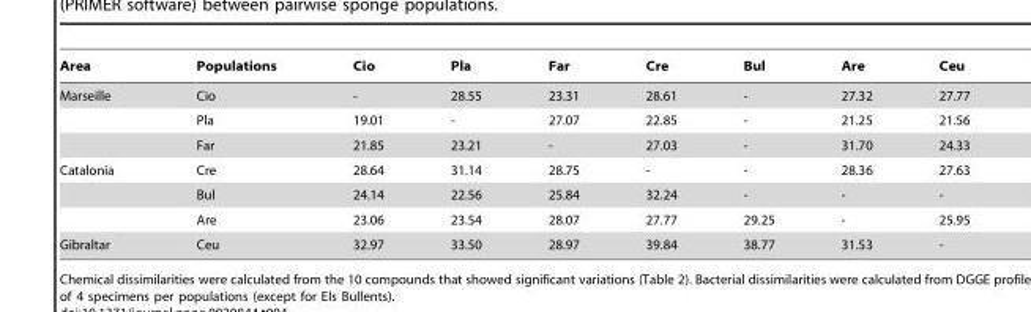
<table><thead><tr><td>Area</td><td>Populations</td><td>Cio</td><td>Pla</td><td>Far</td><td>Cre</td><td>Bul</td><td>Are</td><td>Ceu</td></tr></thead><tbody><tr><td rowspan="3">Marseille</td><td>Cio</td><td>-</td><td>28.55</td><td>23.31</td><td>28.61</td><td>-</td><td>27.32</td><td>27.77</td></tr><tr><td>Pla</td><td>19.01</td><td>-</td><td>27.07</td><td>22.85</td><td>-</td><td>21.25</td><td>21.56</td></tr><tr><td>Far</td><td>21.85</td><td>23.21</td><td>-</td><td>27.03</td><td>-</td><td>31.70</td><td>24.33</td></tr><tr><td rowspan="3">Catalonia</td><td>Cre</td><td>28.64</td><td>31.14</td><td>28.75</td><td>-</td><td>-</td><td>28.36</td><td>27.63</td></tr><tr><td>Bul</td><td>24.14</td><td>22.56</td><td>25.84</td><td>32.24</td><td>-</td><td>-</td><td>-</td></tr><tr><td>Are</td><td>23.06</td><td>23.54</td><td>28.07</td><td>27.77</td><td>29.25</td><td>-</td><td>25.95</td></tr><tr><td>Gibraltar</td><td>Ceu</td><td>32.97</td><td>33.50</td><td>28.97</td><td>39.84</td><td>38.77</td><td>31.53</td><td>-</td></tr></tbody></table>